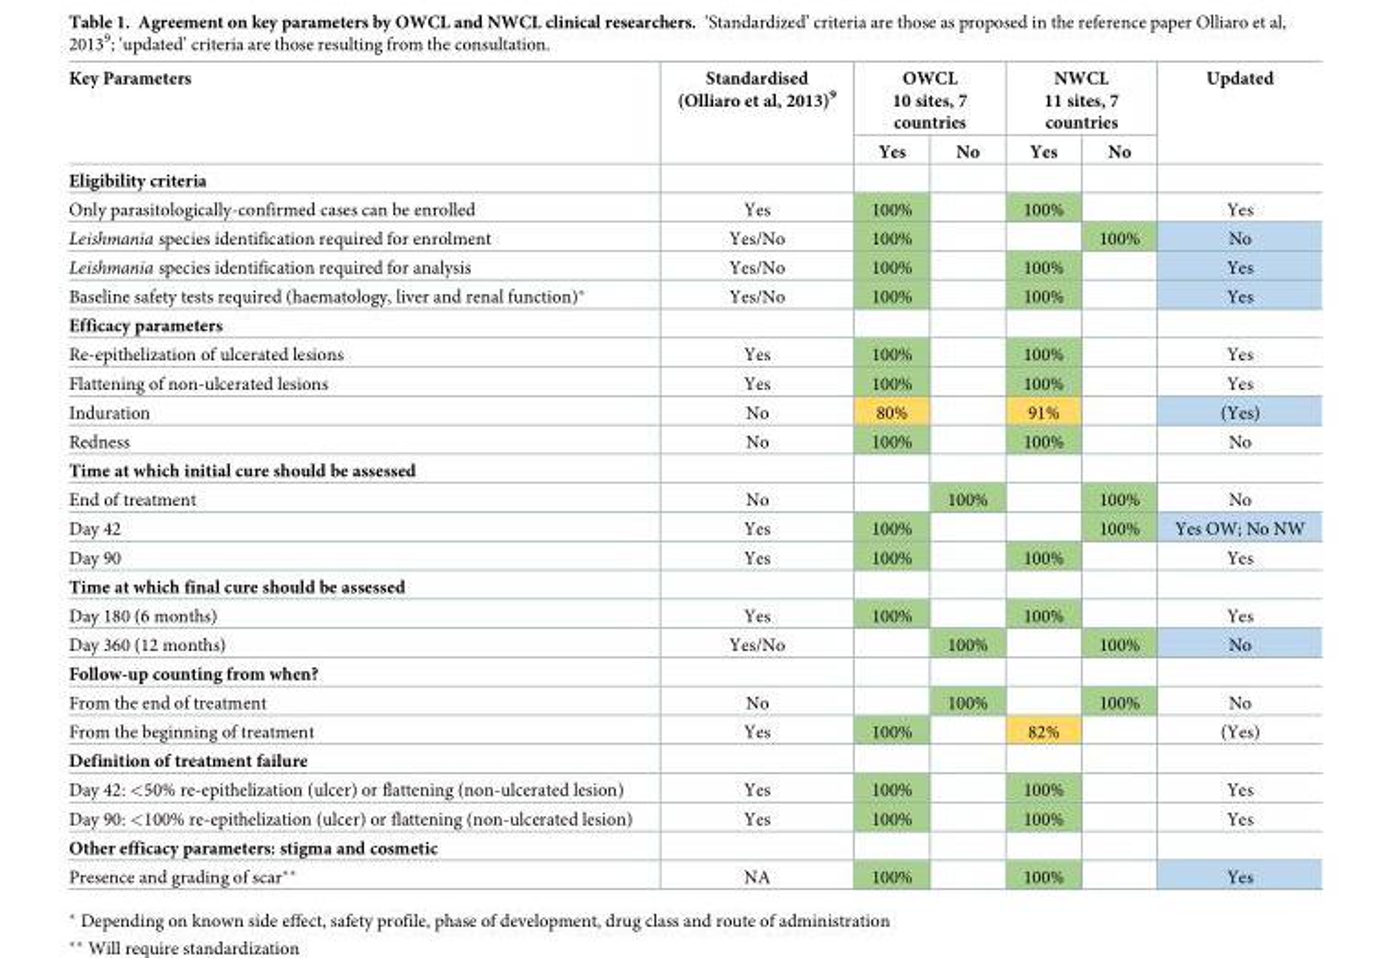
<table><thead><tr><td rowspan="2">Key Parameters</td><td rowspan="2">Standardised (Olliaro et al, 2013)<sup>9</sup></td><td colspan="2">OWCL 10 sites, 7 countries</td><td colspan="2">NWCL 11 sites, 7 countries</td><td rowspan="2">Updated</td></tr><tr><td>Yes</td><td>No</td><td>Yes</td><td>No</td></tr></thead><tbody><tr><td colspan="7">Eligibility criteria</td></tr><tr><td>Only parasitologically-confirmed cases can be enrolled</td><td>Yes</td><td>100%</td><td></td><td>100%</td><td></td><td>Yes</td></tr><tr><td>Leishmania species identification required for enrolment</td><td>Yes/No</td><td>100%</td><td></td><td></td><td>100%</td><td>No</td></tr><tr><td>Leishmania species identification required for analysis</td><td>Yes/No</td><td>100%</td><td></td><td>100%</td><td></td><td>Yes</td></tr><tr><td>Baseline safety tests required (haematology, liver and renal function)*</td><td>Yes/No</td><td>100%</td><td></td><td>100%</td><td></td><td>Yes</td></tr><tr><td colspan="7">Efficacy parameters</td></tr><tr><td>Re-epithelization of ulcerated lesions</td><td>Yes</td><td>100%</td><td></td><td>100%</td><td></td><td>Yes</td></tr><tr><td>Flattening of non-ulcerated lesions</td><td>Yes</td><td>100%</td><td></td><td>100%</td><td></td><td>Yes</td></tr><tr><td>Induration</td><td>No</td><td>80%</td><td></td><td>91%</td><td></td><td>(Yes)</td></tr><tr><td>Redness</td><td>No</td><td>100%</td><td></td><td>100%</td><td></td><td>No</td></tr><tr><td colspan="7">Time at which initial cure should be assessed</td></tr><tr><td>End of treatment</td><td>No</td><td></td><td>100%</td><td></td><td>100%</td><td>No</td></tr><tr><td>Day 42</td><td>Yes</td><td>100%</td><td></td><td></td><td>100%</td><td>Yes OW; No NW</td></tr><tr><td>Day 90</td><td>Yes</td><td>100%</td><td></td><td>100%</td><td></td><td>Yes</td></tr><tr><td colspan="7">Time at which final cure should be assessed</td></tr><tr><td>Day 180 (6 months)</td><td>Yes</td><td>100%</td><td></td><td>100%</td><td></td><td>Yes</td></tr><tr><td>Day 360 (12 months)</td><td>Yes/No</td><td></td><td>100%</td><td></td><td>100%</td><td>No</td></tr><tr><td colspan="7">Follow-up counting from when?</td></tr><tr><td>From the end of treatment</td><td>No</td><td></td><td>100%</td><td></td><td>100%</td><td>No</td></tr><tr><td>From the beginning of treatment</td><td>Yes</td><td>100%</td><td></td><td>82%</td><td></td><td>(Yes)</td></tr><tr><td colspan="7">Definition of treatment failure</td></tr><tr><td>Day 42: &lt;50% re-epithelization (ulcer) or flattening (non-ulcerated lesion)</td><td>Yes</td><td>100%</td><td></td><td>100%</td><td></td><td>Yes</td></tr><tr><td>Day 90: &lt;100% re-epithelization (ulcer) or flattening (non-ulcerated lesion)</td><td>Yes</td><td>100%</td><td></td><td>100%</td><td></td><td>Yes</td></tr><tr><td colspan="7">Other efficacy parameters: stigma and cosmetic</td></tr><tr><td>Presence and grading of scar**</td><td>NA</td><td>100%</td><td></td><td>100%</td><td></td><td>Yes</td></tr></tbody></table>